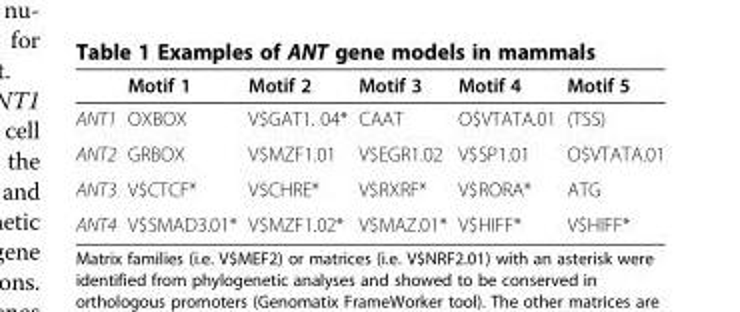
<table><thead><tr><td></td><td>Motif 1</td><td>Motif 2</td><td>Motif 3</td><td>Motif 4</td><td>Motif 5</td></tr></thead><tbody><tr><td>ANT1</td><td>OXBOX</td><td>V$GAT1. 04*</td><td>CAAT</td><td>O$VTATA.01</td><td>(TSS)</td></tr><tr><td>ANT2</td><td>GRBOX</td><td>V$MZF1.01</td><td>V$EGR1.02</td><td>V$SP1.01</td><td>O$VTATA.01</td></tr><tr><td>ANT3</td><td>V$CTCF*</td><td>V$CHRE*</td><td>V$RXRF*</td><td>V$RORA*</td><td>ATG</td></tr><tr><td>ANT4</td><td>V$SMAD3.01*</td><td>V$MZF1.02*</td><td>V$MAZ.01*</td><td>V$HIFF*</td><td>V$HIFF*</td></tr></tbody></table>